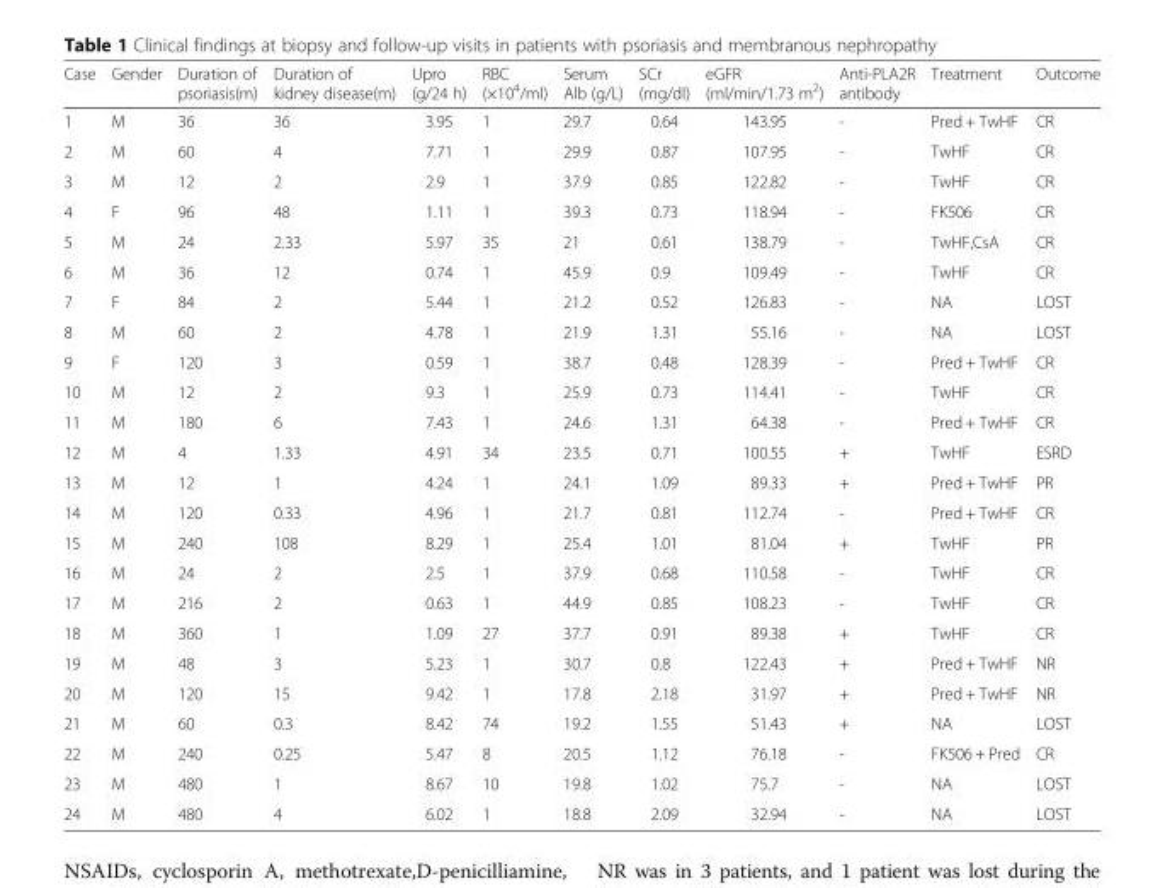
<table><thead><tr><td>Case</td><td>Gender</td><td>Duration of psoriasis(m)</td><td>Duration of kidney disease(m)</td><td>Upro (g/24 h)</td><td>RBC (×10<sup>4</sup>/ml)</td><td>Serum Alb (g/L)</td><td>SCr (mg/dl)</td><td>eGFR (ml/min/1.73 m<sup>2</sup>)</td><td>Anti-PLA2R antibody</td><td>Treatment</td><td>Outcome</td></tr></thead><tbody><tr><td>1</td><td>M</td><td>36</td><td>36</td><td>3.95</td><td>1</td><td>29.7</td><td>0.64</td><td>143.95</td><td>-</td><td>Pred + TwHF</td><td>CR</td></tr><tr><td>2</td><td>M</td><td>60</td><td>4</td><td>7.71</td><td>1</td><td>29.9</td><td>0.87</td><td>107.95</td><td>-</td><td>TwHF</td><td>CR</td></tr><tr><td>3</td><td>M</td><td>12</td><td>2</td><td>2.9</td><td>1</td><td>37.9</td><td>0.85</td><td>122.82</td><td>-</td><td>TwHF</td><td>CR</td></tr><tr><td>4</td><td>F</td><td>96</td><td>48</td><td>1.11</td><td>1</td><td>39.3</td><td>0.73</td><td>118.94</td><td>-</td><td>FK506</td><td>CR</td></tr><tr><td>5</td><td>M</td><td>24</td><td>2.33</td><td>5.97</td><td>35</td><td>21</td><td>0.61</td><td>138.79</td><td>-</td><td>TwHF,CsA</td><td>CR</td></tr><tr><td>6</td><td>M</td><td>36</td><td>12</td><td>0.74</td><td>1</td><td>45.9</td><td>0.9</td><td>109.49</td><td>-</td><td>TwHF</td><td>CR</td></tr><tr><td>7</td><td>F</td><td>84</td><td>2</td><td>5.44</td><td>1</td><td>21.2</td><td>0.52</td><td>126.83</td><td>-</td><td>NA</td><td>LOST</td></tr><tr><td>8</td><td>M</td><td>60</td><td>2</td><td>4.78</td><td>1</td><td>21.9</td><td>1.31</td><td>55.16</td><td>-</td><td>NA</td><td>LOST</td></tr><tr><td>9</td><td>F</td><td>120</td><td>3</td><td>0.59</td><td>1</td><td>38.7</td><td>0.48</td><td>128.39</td><td>-</td><td>Pred + TwHF</td><td>CR</td></tr><tr><td>10</td><td>M</td><td>12</td><td>2</td><td>9.3</td><td>1</td><td>25.9</td><td>0.73</td><td>114.41</td><td>-</td><td>TwHF</td><td>CR</td></tr><tr><td>11</td><td>M</td><td>180</td><td>6</td><td>7.43</td><td>1</td><td>24.6</td><td>1.31</td><td>64.38</td><td>-</td><td>Pred + TwHF</td><td>CR</td></tr><tr><td>12</td><td>M</td><td>4</td><td>1.33</td><td>4.91</td><td>34</td><td>23.5</td><td>0.71</td><td>100.55</td><td>+</td><td>TwHF</td><td>ESRD</td></tr><tr><td>13</td><td>M</td><td>12</td><td>1</td><td>4.24</td><td>1</td><td>24.1</td><td>1.09</td><td>89.33</td><td>+</td><td>Pred + TwHF</td><td>PR</td></tr><tr><td>14</td><td>M</td><td>120</td><td>0.33</td><td>4.96</td><td>1</td><td>21.7</td><td>0.81</td><td>112.74</td><td>-</td><td>Pred + TwHF</td><td>CR</td></tr><tr><td>15</td><td>M</td><td>240</td><td>108</td><td>8.29</td><td>1</td><td>25.4</td><td>1.01</td><td>81.04</td><td>+</td><td>TwHF</td><td>PR</td></tr><tr><td>16</td><td>M</td><td>24</td><td>2</td><td>2.5</td><td>1</td><td>37.9</td><td>0.68</td><td>110.58</td><td>-</td><td>TwHF</td><td>CR</td></tr><tr><td>17</td><td>M</td><td>216</td><td>2</td><td>0.63</td><td>1</td><td>44.9</td><td>0.85</td><td>108.23</td><td>-</td><td>TwHF</td><td>CR</td></tr><tr><td>18</td><td>M</td><td>360</td><td>1</td><td>1.09</td><td>27</td><td>37.7</td><td>0.91</td><td>89.38</td><td>+</td><td>TwHF</td><td>CR</td></tr><tr><td>19</td><td>M</td><td>48</td><td>3</td><td>5.23</td><td>1</td><td>30.7</td><td>0.8</td><td>122.43</td><td>+</td><td>Pred + TwHF</td><td>NR</td></tr><tr><td>20</td><td>M</td><td>120</td><td>15</td><td>9.42</td><td>1</td><td>17.8</td><td>2.18</td><td>31.97</td><td>+</td><td>Pred + TwHF</td><td>NR</td></tr><tr><td>21</td><td>M</td><td>60</td><td>0.3</td><td>8.42</td><td>74</td><td>19.2</td><td>1.55</td><td>51.43</td><td>+</td><td>NA</td><td>LOST</td></tr><tr><td>22</td><td>M</td><td>240</td><td>0.25</td><td>5.47</td><td>8</td><td>20.5</td><td>1.12</td><td>76.18</td><td>-</td><td>FK506 + Pred</td><td>CR</td></tr><tr><td>23</td><td>M</td><td>480</td><td>1</td><td>8.67</td><td>10</td><td>19.8</td><td>1.02</td><td>75.7</td><td>-</td><td>NA</td><td>LOST</td></tr><tr><td>24</td><td>M</td><td>480</td><td>4</td><td>6.02</td><td>1</td><td>18.8</td><td>2.09</td><td>32.94</td><td>-</td><td>NA</td><td>LOST</td></tr></tbody></table>